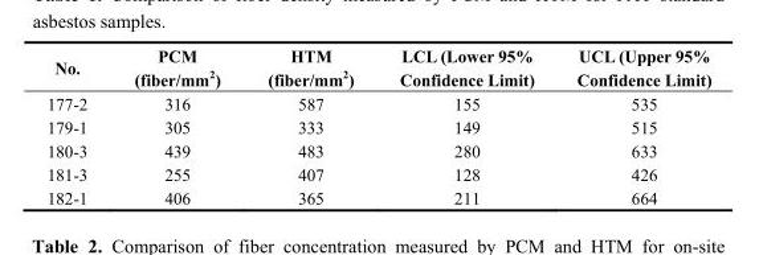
<table><thead><tr><td>No.</td><td>PCM (fiber/mm<sup>2</sup>)</td><td>HTM (fiber/mm<sup>2</sup>)</td><td>LCL (Lower 95% Confidence Limit)</td><td>UCL (Upper 95% Confidence Limit)</td></tr></thead><tbody><tr><td>177-2</td><td>316</td><td>587</td><td>155</td><td>535</td></tr><tr><td>179-1</td><td>305</td><td>333</td><td>149</td><td>515</td></tr><tr><td>180-3</td><td>439</td><td>483</td><td>280</td><td>633</td></tr><tr><td>181-3</td><td>255</td><td>407</td><td>128</td><td>426</td></tr><tr><td>182-1</td><td>406</td><td>365</td><td>211</td><td>664</td></tr></tbody></table>